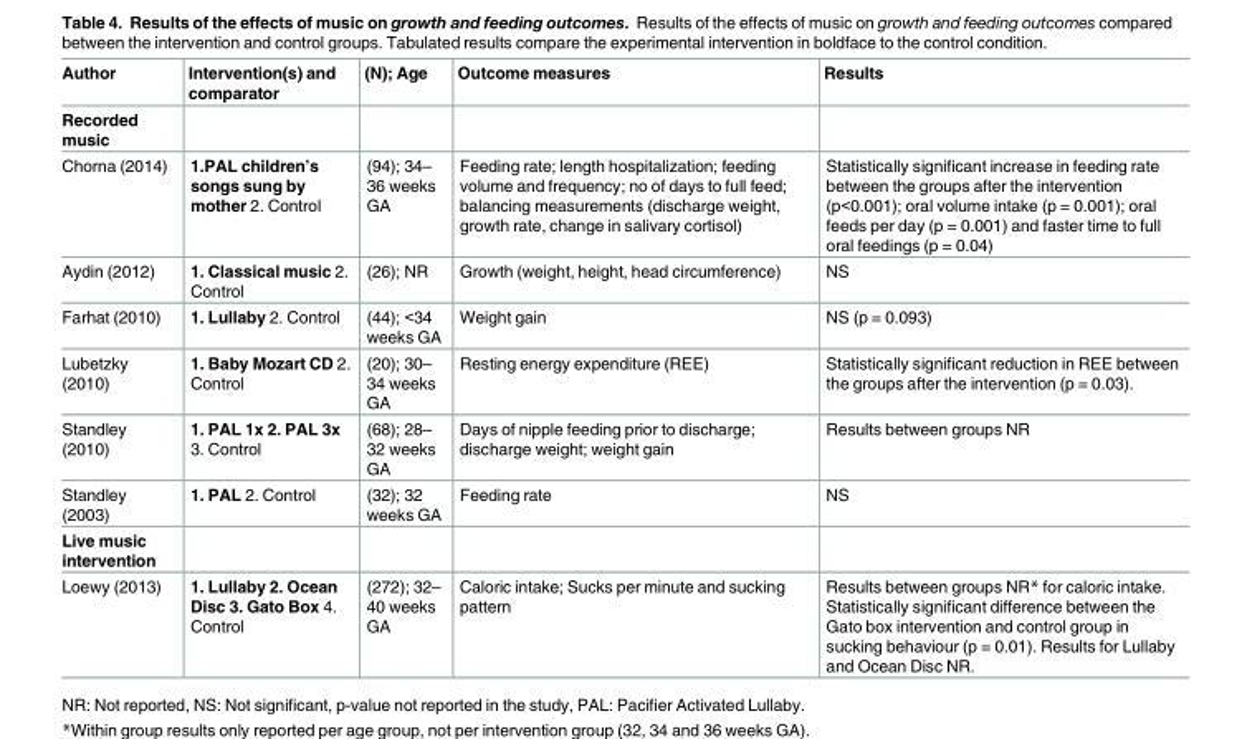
<table><thead><tr><td>Author</td><td>Intervention(s) and comparator</td><td>(N); Age</td><td>Outcome measures</td><td>Results</td></tr></thead><tbody><tr><td colspan="5">Recorded music</td></tr><tr><td>Chorna (2014)</td><td>1.PAL children’s songs sung by mother 2. Control</td><td>(94); 34– 36 weeks GA</td><td>Feeding rate; length hospitalization; feeding volume and frequency; no of days to full feed; balancing measurements (discharge weight, growth rate, change in salivary cortisol)</td><td>Statistically significant increase in feeding rate between the groups after the intervention (p&lt;0.001); oral volume intake (p = 0.001); oral feeds per day (p = 0.001) and faster time to full oral feedings (p = 0.04)</td></tr><tr><td>Aydin (2012)</td><td>1. Classical music 2. Control</td><td>(26); NR</td><td>Growth (weight, height, head circumference)</td><td>NS</td></tr><tr><td>Farhat (2010)</td><td>1. Lullaby 2. Control</td><td>(44); &lt;34 weeks GA</td><td>Weight gain</td><td>NS (p = 0.093)</td></tr><tr><td>Lubetzky (2010)</td><td>1. Baby Mozart CD 2. Control</td><td>(20); 30– 34 weeks GA</td><td>Resting energy expenditure (REE)</td><td>Statistically significant reduction in REE between the groups after the intervention (p = 0.03).</td></tr><tr><td>Standley (2010)</td><td>1. PAL 1x 2. PAL 3x 3. Control</td><td>(68); 28– 32 weeks GA</td><td>Days of nipple feeding prior to discharge; discharge weight; weight gain</td><td>Results between groups NR</td></tr><tr><td>Standley (2003)</td><td>1. PAL 2. Control</td><td>(32); 32 weeks GA</td><td>Feeding rate</td><td>NS</td></tr><tr><td colspan="5">Live music intervention</td></tr><tr><td>Loewy (2013)</td><td>1. Lullaby 2. Ocean Disc 3. Gato Box 4. Control</td><td>(272); 32– 40 weeks GA</td><td>Caloric intake; Sucks per minute and sucking pattern</td><td>Results between groups NR* for caloric intake. Statistically significant difference between the Gato box intervention and control group in sucking behaviour (p = 0.01). Results for Lullaby and Ocean Disc NR.</td></tr></tbody></table>